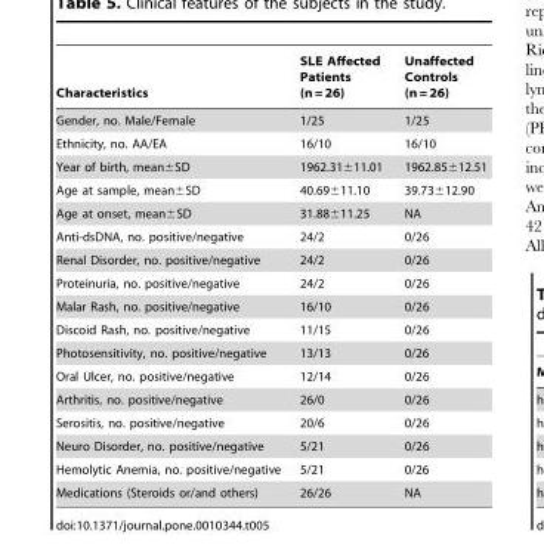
<table><thead><tr><td>Characteristics</td><td>SLE Affected Patients (n = 26)</td><td>Unaffected Controls (n = 26)</td></tr></thead><tbody><tr><td>Gender, no. Male/Female</td><td>1/25</td><td>1/25</td></tr><tr><td>Ethnicity, no. AA/EA</td><td>16/10</td><td>16/10</td></tr><tr><td>Year of birth, mean±SD</td><td>1962.31±11.01</td><td>1962.85±12.51</td></tr><tr><td>Age at sample, mean±SD</td><td>40.69±11.10</td><td>39.73±12.90</td></tr><tr><td>Age at onset, mean±SD</td><td>31.88±11.25</td><td>NA</td></tr><tr><td>Anti-dsDNA, no. positive/negative</td><td>24/2</td><td>0/26</td></tr><tr><td>Renal Disorder, no. positive/negative</td><td>24/2</td><td>0/26</td></tr><tr><td>Proteinuria, no. positive/negative</td><td>24/2</td><td>0/26</td></tr><tr><td>Malar Rash, no. positive/negative</td><td>16/10</td><td>0/26</td></tr><tr><td>Discoid Rash, no. positive/negative</td><td>11/15</td><td>0/26</td></tr><tr><td>Photosensitivity, no. positive/negative</td><td>13/13</td><td>0/26</td></tr><tr><td>Oral Ulcer, no. positive/negative</td><td>12/14</td><td>0/26</td></tr><tr><td>Arthritis, no. positive/negative</td><td>26/0</td><td>0/26</td></tr><tr><td>Serositis, no. positive/negative</td><td>20/6</td><td>0/26</td></tr><tr><td>Neuro Disorder, no. positive/negative</td><td>5/21</td><td>0/26</td></tr><tr><td>Hemolytic Anemia, no. positive/negative</td><td>5/21</td><td>0/26</td></tr><tr><td>Medications (Steroids or/and others)</td><td>26/26</td><td>NA</td></tr></tbody></table>